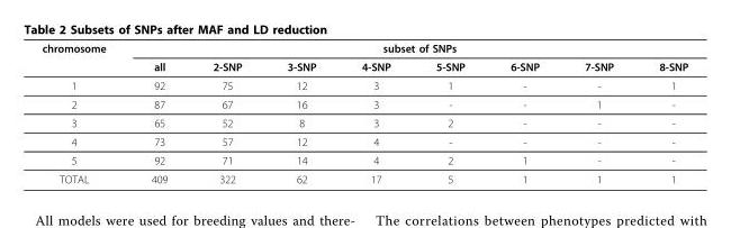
<table><thead><tr><td rowspan="2">chromosome</td><td colspan="8">subset of SNPs</td></tr><tr><td>all</td><td>2-SNP</td><td>3-SNP</td><td>4-SNP</td><td>5-SNP</td><td>6-SNP</td><td>7-SNP</td><td>8-SNP</td></tr></thead><tbody><tr><td>1</td><td>92</td><td>75</td><td>12</td><td>3</td><td>1</td><td>-</td><td>-</td><td>1</td></tr><tr><td>2</td><td>87</td><td>67</td><td>16</td><td>3</td><td>-</td><td>-</td><td>1</td><td>-</td></tr><tr><td>3</td><td>65</td><td>52</td><td>8</td><td>3</td><td>2</td><td>-</td><td>-</td><td>-</td></tr><tr><td>4</td><td>73</td><td>57</td><td>12</td><td>4</td><td>-</td><td>-</td><td>-</td><td>-</td></tr><tr><td>5</td><td>92</td><td>71</td><td>14</td><td>4</td><td>2</td><td>1</td><td>-</td><td>-</td></tr><tr><td>TOTAL</td><td>409</td><td>322</td><td>62</td><td>17</td><td>5</td><td>1</td><td>1</td><td>1</td></tr></tbody></table>